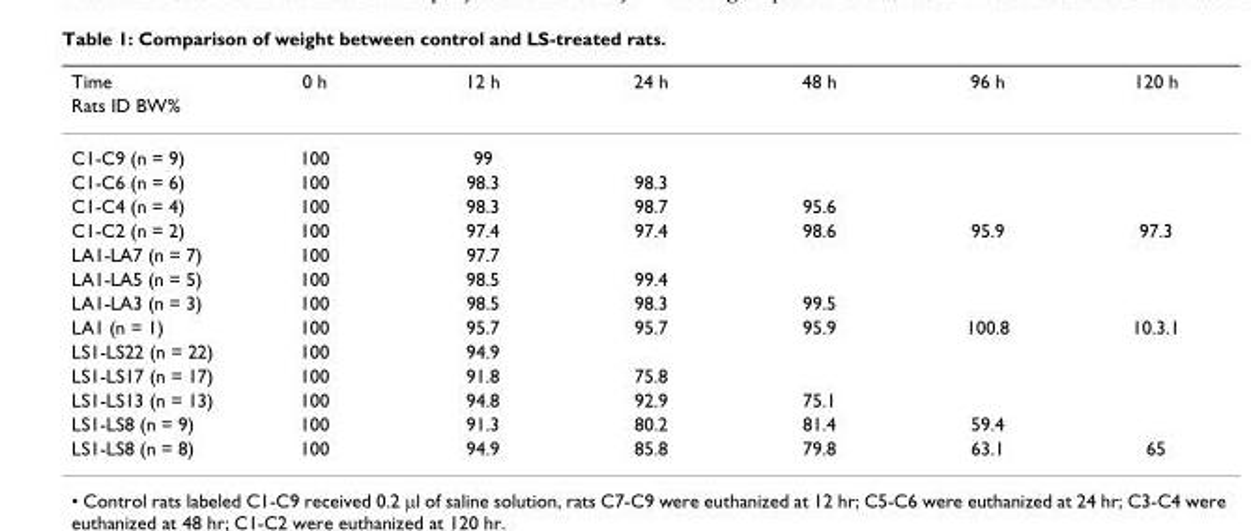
<table><thead><tr><td rowspan="2">Time Rats ID BW%</td><td rowspan="2">0 h</td><td rowspan="2">12 h</td><td rowspan="2">24 h</td><td rowspan="2">48 h</td><td rowspan="2">96 h</td><td rowspan="2">120 h</td></tr><tr></tr></thead><tbody><tr><td>C1-C9 (n = 9)</td><td>100</td><td>99</td><td></td><td></td><td></td><td></td></tr><tr><td>C1-C6 (n = 6)</td><td>100</td><td>98.3</td><td>98.3</td><td></td><td></td><td></td></tr><tr><td>C1-C4 (n = 4)</td><td>100</td><td>98.3</td><td>98.7</td><td>95.6</td><td></td><td></td></tr><tr><td>C1-C2 (n = 2)</td><td>100</td><td>97.4</td><td>97.4</td><td>98.6</td><td>95.9</td><td>97.3</td></tr><tr><td>LA1-LA7 (n = 7)</td><td>100</td><td>97.7</td><td></td><td></td><td></td><td></td></tr><tr><td>LA1-LA5 (n = 5)</td><td>100</td><td>98.5</td><td>99.4</td><td></td><td></td><td></td></tr><tr><td>LA1-LA3 (n = 3)</td><td>100</td><td>98.5</td><td>98.3</td><td>99.5</td><td></td><td></td></tr><tr><td>LA1 (n = 1)</td><td>100</td><td>95.7</td><td>95.7</td><td>95.9</td><td>100.8</td><td>10.3.1</td></tr><tr><td>LS1-LS22 (n = 22)</td><td>100</td><td>94.9</td><td></td><td></td><td></td><td></td></tr><tr><td>LS1-LS17 (n = 17)</td><td>100</td><td>91.8</td><td>75.8</td><td></td><td></td><td></td></tr><tr><td>LS1-LS13 (n = 13)</td><td>100</td><td>94.8</td><td>92.9</td><td>75.1</td><td></td><td></td></tr><tr><td>LS1-LS8 (n = 9)</td><td>100</td><td>91.3</td><td>80.2</td><td>81.4</td><td>59.4</td><td></td></tr><tr><td>LS1-LS8 (n = 8)</td><td>100</td><td>94.9</td><td>85.8</td><td>79.8</td><td>63.1</td><td>65</td></tr></tbody></table>